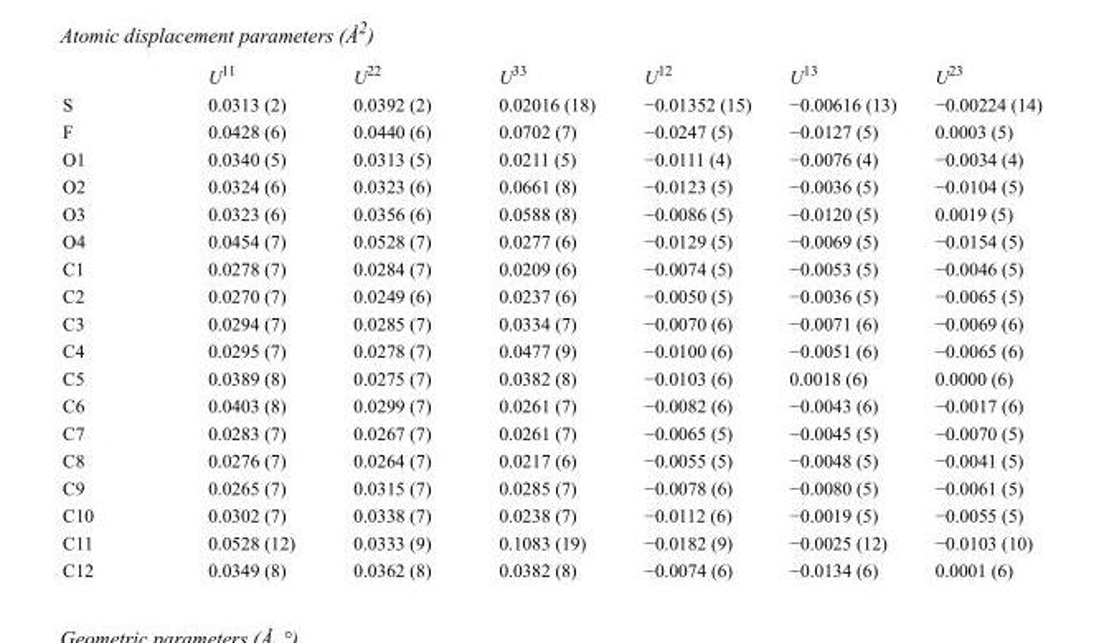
<table><thead><tr><td></td><td>U<sup>11</sup></td><td>U<sup>22</sup></td><td>U<sup>33</sup></td><td>U<sup>12</sup></td><td>U<sup>13</sup></td><td>U<sup>23</sup></td></tr></thead><tbody><tr><td>S</td><td>0.0313 (2)</td><td>0.0392 (2)</td><td>0.02016 (18)</td><td>−0.01352 (15)</td><td>−0.00616 (13)</td><td>−0.00224 (14)</td></tr><tr><td>F</td><td>0.0428 (6)</td><td>0.0440 (6)</td><td>0.0702 (7)</td><td>−0.0247 (5)</td><td>−0.0127 (5)</td><td>0.0003 (5)</td></tr><tr><td>O1</td><td>0.0340 (5)</td><td>0.0313 (5)</td><td>0.0211 (5)</td><td>−0.0111 (4)</td><td>−0.0076 (4)</td><td>−0.0034 (4)</td></tr><tr><td>O2</td><td>0.0324 (6)</td><td>0.0323 (6)</td><td>0.0661 (8)</td><td>−0.0123 (5)</td><td>−0.0036 (5)</td><td>−0.0104 (5)</td></tr><tr><td>O3</td><td>0.0323 (6)</td><td>0.0356 (6)</td><td>0.0588 (8)</td><td>−0.0086 (5)</td><td>−0.0120 (5)</td><td>0.0019 (5)</td></tr><tr><td>O4</td><td>0.0454 (7)</td><td>0.0528 (7)</td><td>0.0277 (6)</td><td>−0.0129 (5)</td><td>−0.0069 (5)</td><td>−0.0154 (5)</td></tr><tr><td>C1</td><td>0.0278 (7)</td><td>0.0284 (7)</td><td>0.0209 (6)</td><td>−0.0074 (5)</td><td>−0.0053 (5)</td><td>−0.0046 (5)</td></tr><tr><td>C2</td><td>0.0270 (7)</td><td>0.0249 (6)</td><td>0.0237 (6)</td><td>−0.0050 (5)</td><td>−0.0036 (5)</td><td>−0.0065 (5)</td></tr><tr><td>C3</td><td>0.0294 (7)</td><td>0.0285 (7)</td><td>0.0334 (7)</td><td>−0.0070 (6)</td><td>−0.0071 (6)</td><td>−0.0069 (6)</td></tr><tr><td>C4</td><td>0.0295 (7)</td><td>0.0278 (7)</td><td>0.0477 (9)</td><td>−0.0100 (6)</td><td>−0.0051 (6)</td><td>−0.0065 (6)</td></tr><tr><td>C5</td><td>0.0389 (8)</td><td>0.0275 (7)</td><td>0.0382 (8)</td><td>−0.0103 (6)</td><td>0.0018 (6)</td><td>0.0000 (6)</td></tr><tr><td>C6</td><td>0.0403 (8)</td><td>0.0299 (7)</td><td>0.0261 (7)</td><td>−0.0082 (6)</td><td>−0.0043 (6)</td><td>−0.0017 (6)</td></tr><tr><td>C7</td><td>0.0283 (7)</td><td>0.0267 (7)</td><td>0.0261 (7)</td><td>−0.0065 (5)</td><td>−0.0045 (5)</td><td>−0.0070 (5)</td></tr><tr><td>C8</td><td>0.0276 (7)</td><td>0.0264 (7)</td><td>0.0217 (6)</td><td>−0.0055 (5)</td><td>−0.0048 (5)</td><td>−0.0041 (5)</td></tr><tr><td>C9</td><td>0.0265 (7)</td><td>0.0315 (7)</td><td>0.0285 (7)</td><td>−0.0078 (6)</td><td>−0.0080 (5)</td><td>−0.0061 (5)</td></tr><tr><td>C10</td><td>0.0302 (7)</td><td>0.0338 (7)</td><td>0.0238 (7)</td><td>−0.0112 (6)</td><td>−0.0019 (5)</td><td>−0.0055 (5)</td></tr><tr><td>C11</td><td>0.0528 (12)</td><td>0.0333 (9)</td><td>0.1083 (19)</td><td>−0.0182 (9)</td><td>−0.0025 (12)</td><td>−0.0103 (10)</td></tr><tr><td>C12</td><td>0.0349 (8)</td><td>0.0362 (8)</td><td>0.0382 (8)</td><td>−0.0074 (6)</td><td>−0.0134 (6)</td><td>0.0001 (6)</td></tr></tbody></table>